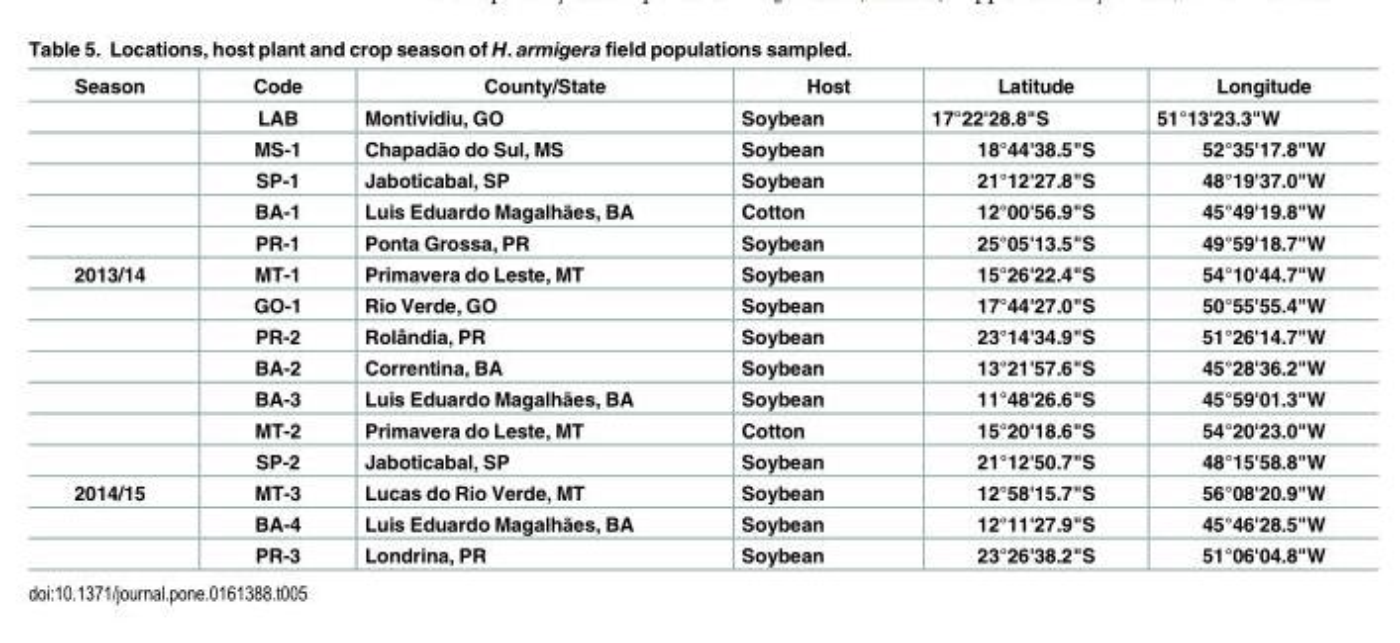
<table><thead><tr><td>Season</td><td>Code</td><td>County/State</td><td>Host</td><td>Latitude</td><td>Longitude</td></tr></thead><tbody><tr><td></td><td>LAB</td><td>Montividiu, GO</td><td>Soybean</td><td>17°22&#x27;28.8&quot;S</td><td>51°13&#x27;23.3&quot;W</td></tr><tr><td></td><td>MS-1</td><td>Chapadão do Sul, MS</td><td>Soybean</td><td>18°44&#x27;38.5&quot;S</td><td>52°35&#x27;17.8&quot;W</td></tr><tr><td></td><td>SP-1</td><td>Jaboticabal, SP</td><td>Soybean</td><td>21°12&#x27;27.8&quot;S</td><td>48°19&#x27;37.0&quot;W</td></tr><tr><td></td><td>BA-1</td><td>Luis Eduardo Magalhães, BA</td><td>Cotton</td><td>12°00&#x27;56.9&quot;S</td><td>45°49&#x27;19.8&quot;W</td></tr><tr><td></td><td>PR-1</td><td>Ponta Grossa, PR</td><td>Soybean</td><td>25°05&#x27;13.5&quot;S</td><td>49°59&#x27;18.7&quot;W</td></tr><tr><td rowspan="7">2013/14</td><td>MT-1</td><td>Primavera do Leste, MT</td><td>Soybean</td><td>15°26&#x27;22.4&quot;S</td><td>54°10&#x27;44.7&quot;W</td></tr><tr><td>GO-1</td><td>Rio Verde, GO</td><td>Soybean</td><td>17°44&#x27;27.0&quot;S</td><td>50°55&#x27;55.4&quot;W</td></tr><tr><td>PR-2</td><td>Rolândia, PR</td><td>Soybean</td><td>23°14&#x27;34.9&quot;S</td><td>51°26&#x27;14.7&quot;W</td></tr><tr><td>BA-2</td><td>Correntina, BA</td><td>Soybean</td><td>13°21&#x27;57.6&quot;S</td><td>45°28&#x27;36.2&quot;W</td></tr><tr><td>BA-3</td><td>Luis Eduardo Magalhães, BA</td><td>Soybean</td><td>11°48&#x27;26.6&quot;S</td><td>45°59&#x27;01.3&quot;W</td></tr><tr><td>MT-2</td><td>Primavera do Leste, MT</td><td>Cotton</td><td>15°20&#x27;18.6&quot;S</td><td>54°20&#x27;23.0&quot;W</td></tr><tr><td>SP-2</td><td>Jaboticabal, SP</td><td>Soybean</td><td>21°12&#x27;50.7&quot;S</td><td>48°15&#x27;58.8&quot;W</td></tr><tr><td rowspan="3">2014/15</td><td>MT-3</td><td>Lucas do Rio Verde, MT</td><td>Soybean</td><td>12°58&#x27;15.7&quot;S</td><td>56°08&#x27;20.9&quot;W</td></tr><tr><td>BA-4</td><td>Luis Eduardo Magalhães, BA</td><td>Soybean</td><td>12°11&#x27;27.9&quot;S</td><td>45°46&#x27;28.5&quot;W</td></tr><tr><td>PR-3</td><td>Londrina, PR</td><td>Soybean</td><td>23°26&#x27;38.2&quot;S</td><td>51°06&#x27;04.8&quot;W</td></tr></tbody></table>